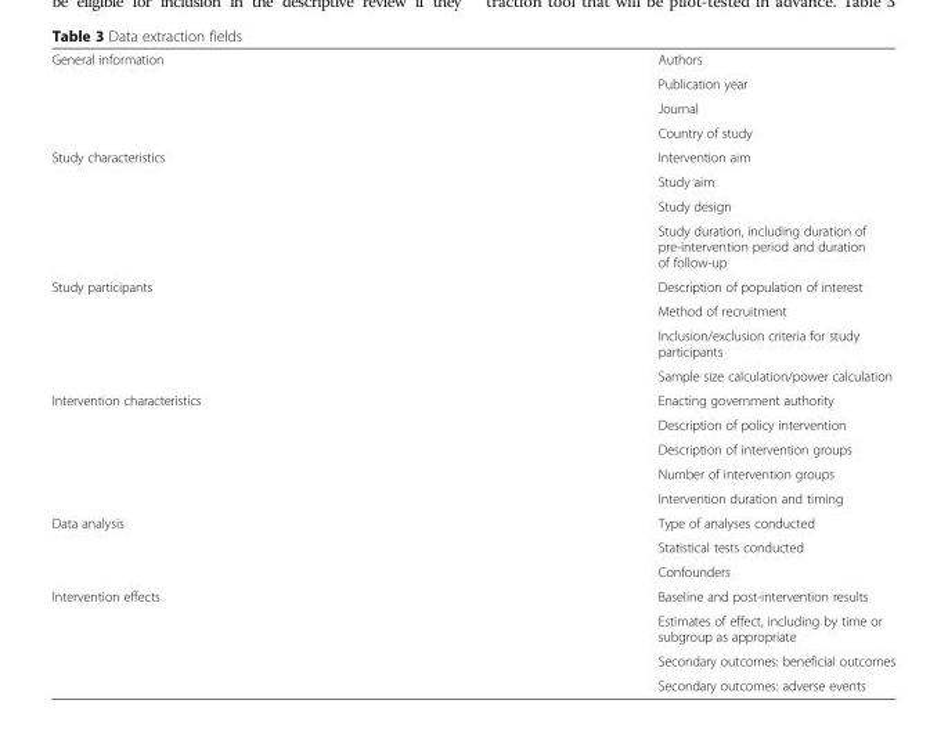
<table><tbody><tr><td rowspan="4">General information</td><td>Authors</td></tr><tr><td>Publication year</td></tr><tr><td>Journal</td></tr><tr><td>Country of study</td></tr><tr><td rowspan="4">Study characteristics</td><td>Intervention aim</td></tr><tr><td>Study aim</td></tr><tr><td>Study design</td></tr><tr><td>Study duration, including duration of pre-intervention period and duration of follow-up</td></tr><tr><td rowspan="4">Study participants</td><td>Description of population of interest</td></tr><tr><td>Method of recruitment</td></tr><tr><td>Inclusion/exclusion criteria for study participants</td></tr><tr><td>Sample size calculation/power calculation</td></tr><tr><td rowspan="5">Intervention characteristics</td><td>Enacting government authority</td></tr><tr><td>Description of policy intervention</td></tr><tr><td>Description of intervention groups</td></tr><tr><td>Number of intervention groups</td></tr><tr><td>Intervention duration and timing</td></tr><tr><td rowspan="3">Data analysis</td><td>Type of analyses conducted</td></tr><tr><td>Statistical tests conducted</td></tr><tr><td>Confounders</td></tr><tr><td rowspan="4">Intervention effects</td><td>Baseline and post-intervention results</td></tr><tr><td>Estimates of effect, including by time or subgroup as appropriate</td></tr><tr><td>Secondary outcomes: beneficial outcomes</td></tr><tr><td>Secondary outcomes: adverse events</td></tr></tbody></table>